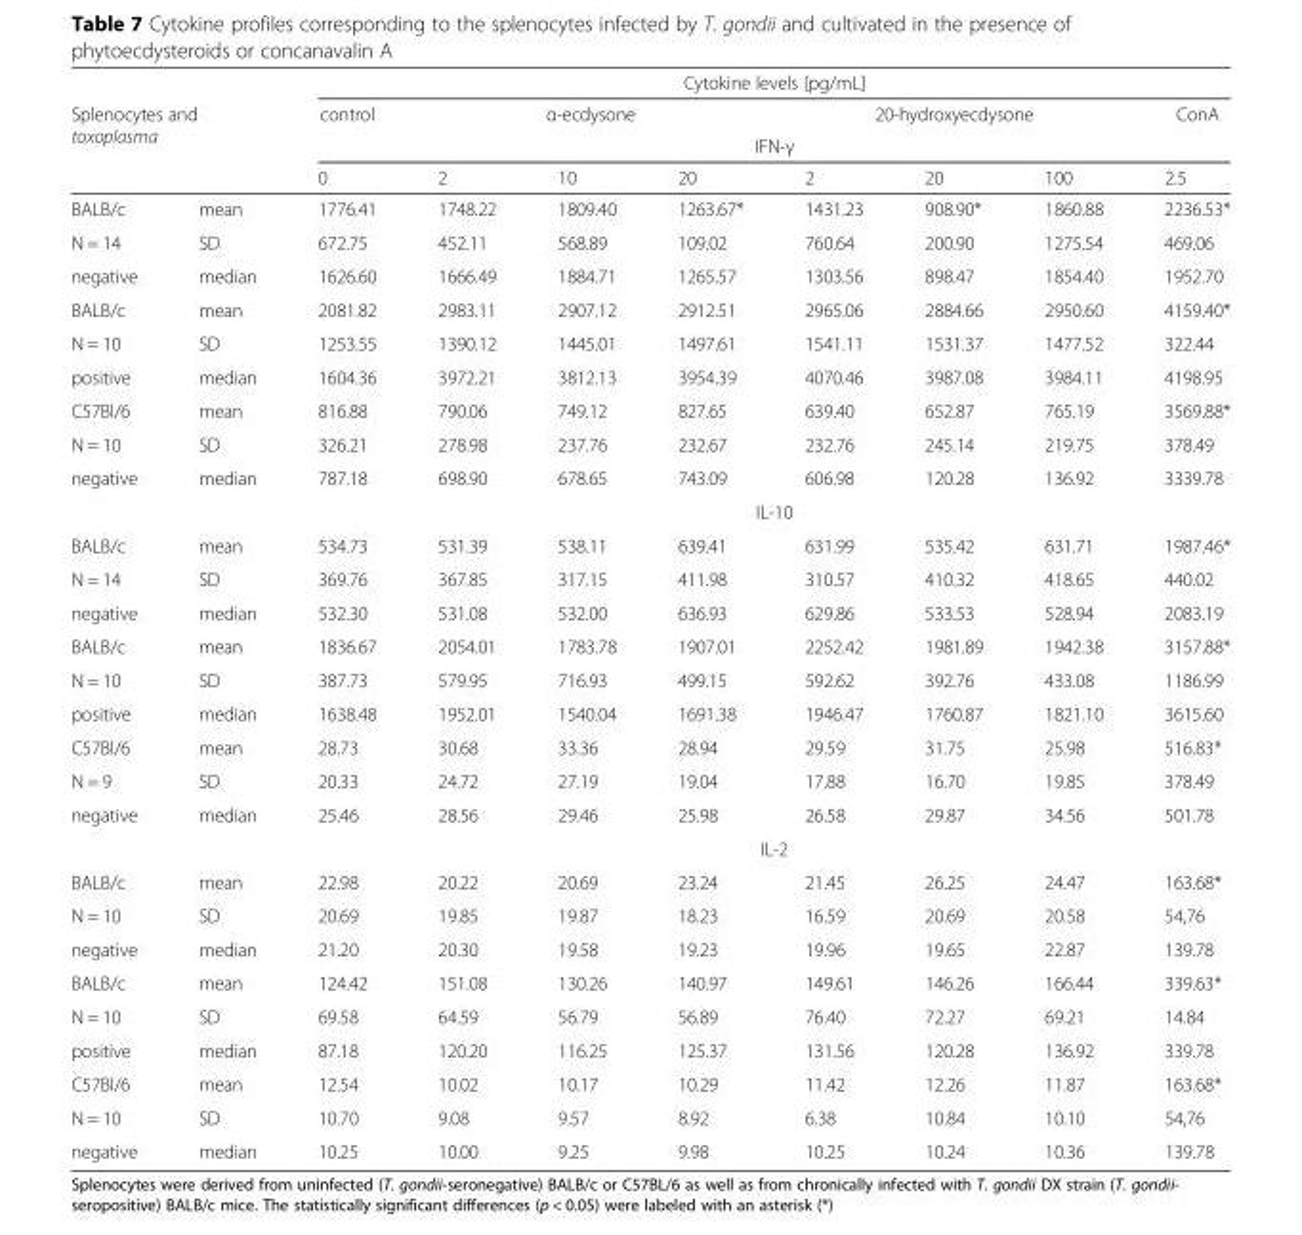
<table><thead><tr><td></td><td></td><td colspan="8">Cytokine levels [pg/mL]</td></tr><tr><td rowspan="3" colspan="2">Splenocytes and toxoplasma</td><td>control</td><td colspan="3">α-ecdysone</td><td colspan="3">20-hydroxyecdysone</td><td>ConA</td></tr><tr><td colspan="8">IFN-γ</td></tr><tr><td>0</td><td>2</td><td>10</td><td>20</td><td>2</td><td>20</td><td>100</td><td>2.5</td></tr></thead><tbody><tr><td>BALB/c</td><td>mean</td><td>1776.41</td><td>1748.22</td><td>1809.40</td><td>1263.67*</td><td>1431.23</td><td>908.90*</td><td>1860.88</td><td>2236.53*</td></tr><tr><td>N = 14</td><td>SD</td><td>672.75</td><td>452.11</td><td>568.89</td><td>109.02</td><td>760.64</td><td>200.90</td><td>1275.54</td><td>469.06</td></tr><tr><td>negative</td><td>median</td><td>1626.60</td><td>1666.49</td><td>1884.71</td><td>1265.57</td><td>1303.56</td><td>898.47</td><td>1854.40</td><td>1952.70</td></tr><tr><td>BALB/c</td><td>mean</td><td>2081.82</td><td>2983.11</td><td>2907.12</td><td>2912.51</td><td>2965.06</td><td>2884.66</td><td>2950.60</td><td>4159.40*</td></tr><tr><td>N = 10</td><td>SD</td><td>1253.55</td><td>1390.12</td><td>1445.01</td><td>1497.61</td><td>1541.11</td><td>1531.37</td><td>1477.52</td><td>322.44</td></tr><tr><td>positive</td><td>median</td><td>1604.36</td><td>3972.21</td><td>3812.13</td><td>3954.39</td><td>4070.46</td><td>3987.08</td><td>3984.11</td><td>4198.95</td></tr><tr><td>C57Bl/6</td><td>mean</td><td>816.88</td><td>790.06</td><td>749.12</td><td>827.65</td><td>639.40</td><td>652.87</td><td>765.19</td><td>3569.88*</td></tr><tr><td>N = 10</td><td>SD</td><td>326.21</td><td>278.98</td><td>237.76</td><td>232.67</td><td>232.76</td><td>245.14</td><td>219.75</td><td>378.49</td></tr><tr><td>negative</td><td>median</td><td>787.18</td><td>698.90</td><td>678.65</td><td>743.09</td><td>606.98</td><td>120.28</td><td>136.92</td><td>3339.78</td></tr><tr><td colspan="2"></td><td colspan="8">IL-10</td></tr><tr><td>BALB/c</td><td>mean</td><td>534.73</td><td>531.39</td><td>538.11</td><td>639.41</td><td>631.99</td><td>535.42</td><td>631.71</td><td>1987.46*</td></tr><tr><td>N = 14</td><td>SD</td><td>369.76</td><td>367.85</td><td>317.15</td><td>411.98</td><td>310.57</td><td>410.32</td><td>418.65</td><td>440.02</td></tr><tr><td>negative</td><td>median</td><td>532.30</td><td>531.08</td><td>532.00</td><td>636.93</td><td>629.86</td><td>533.53</td><td>528.94</td><td>2083.19</td></tr><tr><td>BALB/c</td><td>mean</td><td>1836.67</td><td>2054.01</td><td>1783.78</td><td>1907.01</td><td>2252.42</td><td>1981.89</td><td>1942.38</td><td>3157.88*</td></tr><tr><td>N = 10</td><td>SD</td><td>387.73</td><td>579.95</td><td>716.93</td><td>499.15</td><td>592.62</td><td>392.76</td><td>433.08</td><td>1186.99</td></tr><tr><td>positive</td><td>median</td><td>1638.48</td><td>1952.01</td><td>1540.04</td><td>1691.38</td><td>1946.47</td><td>1760.87</td><td>1821.10</td><td>3615.60</td></tr><tr><td>C57Bl/6</td><td>mean</td><td>28.73</td><td>30.68</td><td>33.36</td><td>28.94</td><td>29.59</td><td>31.75</td><td>25.98</td><td>516.83*</td></tr><tr><td>N = 9</td><td>SD</td><td>20.33</td><td>24.72</td><td>27.19</td><td>19.04</td><td>17.88</td><td>16.70</td><td>19.85</td><td>378.49</td></tr><tr><td>negative</td><td>median</td><td>25.46</td><td>28.56</td><td>29.46</td><td>25.98</td><td>26.58</td><td>29.87</td><td>34.56</td><td>501.78</td></tr><tr><td colspan="2"></td><td colspan="8">IL-2</td></tr><tr><td>BALB/c</td><td>mean</td><td>22.98</td><td>20.22</td><td>20.69</td><td>23.24</td><td>21.45</td><td>26.25</td><td>24.47</td><td>163.68*</td></tr><tr><td>N = 10</td><td>SD</td><td>20.69</td><td>19.85</td><td>19.87</td><td>18.23</td><td>16.59</td><td>20.69</td><td>20.58</td><td>54,76</td></tr><tr><td>negative</td><td>median</td><td>21.20</td><td>20.30</td><td>19.58</td><td>19.23</td><td>19.96</td><td>19.65</td><td>22.87</td><td>139.78</td></tr><tr><td>BALB/c</td><td>mean</td><td>124.42</td><td>151.08</td><td>130.26</td><td>140.97</td><td>149.61</td><td>146.26</td><td>166.44</td><td>339.63*</td></tr><tr><td>N = 10</td><td>SD</td><td>69.58</td><td>64.59</td><td>56.79</td><td>56.89</td><td>76.40</td><td>72.27</td><td>69.21</td><td>14.84</td></tr><tr><td>positive</td><td>median</td><td>87.18</td><td>120.20</td><td>116.25</td><td>125.37</td><td>131.56</td><td>120.28</td><td>136.92</td><td>339.78</td></tr><tr><td>C57Bl/6</td><td>mean</td><td>12.54</td><td>10.02</td><td>10.17</td><td>10.29</td><td>11.42</td><td>12.26</td><td>11.87</td><td>163.68*</td></tr><tr><td>N = 10</td><td>SD</td><td>10.70</td><td>9.08</td><td>9.57</td><td>8.92</td><td>6.38</td><td>10.84</td><td>10.10</td><td>54,76</td></tr><tr><td>negative</td><td>median</td><td>10.25</td><td>10.00</td><td>9.25</td><td>9.98</td><td>10.25</td><td>10.24</td><td>10.36</td><td>139.78</td></tr></tbody></table>